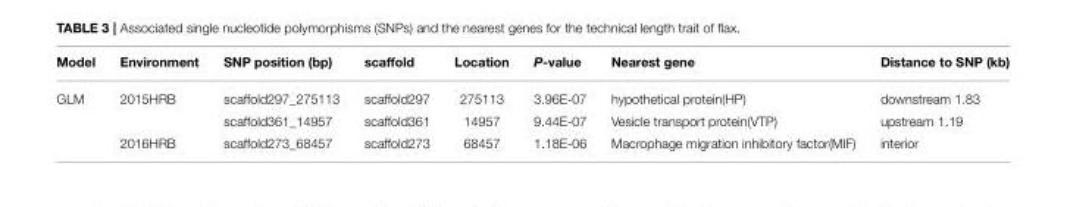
<table><thead><tr><td>Model</td><td>Environment</td><td>SNP position (bp)</td><td>scaffold</td><td>Location</td><td>P-value</td><td>Nearest gene</td><td>Distance to SNP (kb)</td></tr></thead><tbody><tr><td rowspan="3">GLM</td><td>2015HRB</td><td>scaffold297_275113</td><td>scaffold297</td><td>275113</td><td>3.96E-07</td><td>hypothetical protein(HP)</td><td>downstream 1.83</td></tr><tr><td></td><td>scaffold361_14957</td><td>scaffold361</td><td>14957</td><td>9.44E-07</td><td>Vesicle transport protein(VTP)</td><td>upstream 1.19</td></tr><tr><td>2016HRB</td><td>scaffold273_68457</td><td>scaffold273</td><td>68457</td><td>1.18E-06</td><td>Macrophage migration inhibitory factor(MIF)</td><td>interior</td></tr></tbody></table>